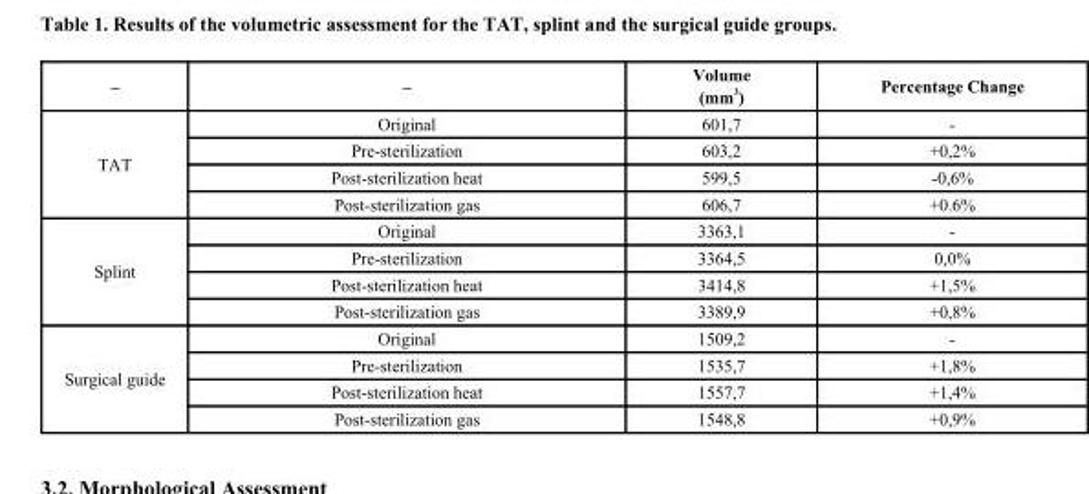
<table><thead><tr><td>–</td><td>–</td><td>Volume (mm <sup>3</sup>)</td><td>Percentage Change</td></tr></thead><tbody><tr><td rowspan="4">TAT</td><td>Original</td><td>601,7</td><td>-</td></tr><tr><td>Pre-sterilization</td><td>603,2</td><td>+0,2%</td></tr><tr><td>Post-sterilization heat</td><td>599,5</td><td>-0,6%</td></tr><tr><td>Post-sterilization gas</td><td>606,7</td><td>+0.6%</td></tr><tr><td rowspan="4">Splint</td><td>Original</td><td>3363,1</td><td>-</td></tr><tr><td>Pre-sterilization</td><td>3364,5</td><td>0,0%</td></tr><tr><td>Post-sterilization heat</td><td>3414,8</td><td>+1,5%</td></tr><tr><td>Post-sterilization gas</td><td>3389,9</td><td>+0,8%</td></tr><tr><td rowspan="4">Surgical guide</td><td>Original</td><td>1509,2</td><td>-</td></tr><tr><td>Pre-sterilization</td><td>1535,7</td><td>+1,8%</td></tr><tr><td>Post-sterilization heat</td><td>1557,7</td><td>+1,4%</td></tr><tr><td>Post-sterilization gas</td><td>1548,8</td><td>+0,9%</td></tr></tbody></table>